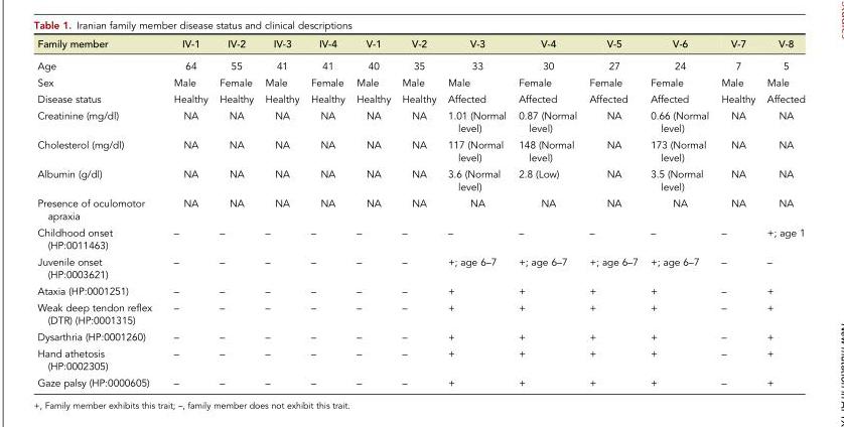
<table><thead><tr><td>Family member</td><td>IV-1</td><td>IV-2</td><td>IV-3</td><td>IV-4</td><td>V-1</td><td>V-2</td><td>V-3</td><td>V-4</td><td>V-5</td><td>V-6</td><td>V-7</td><td>V-8</td></tr></thead><tbody><tr><td>Age</td><td>64</td><td>55</td><td>41</td><td>41</td><td>40</td><td>35</td><td>33</td><td>30</td><td>27</td><td>24</td><td>7</td><td>5</td></tr><tr><td>Sex</td><td>Male</td><td>Female</td><td>Male</td><td>Female</td><td>Male</td><td>Male</td><td>Male</td><td>Female</td><td>Female</td><td>Female</td><td>Male</td><td>Male</td></tr><tr><td>Disease status</td><td>Healthy</td><td>Healthy</td><td>Healthy</td><td>Healthy</td><td>Healthy</td><td>Healthy</td><td>Affected</td><td>Affected</td><td>Affected</td><td>Affected</td><td>Healthy</td><td>Affected</td></tr><tr><td>Creatinine (mg/dl)</td><td>NA</td><td>NA</td><td>NA</td><td>NA</td><td>NA</td><td>NA</td><td>1.01 (Normal level)</td><td>0.87 (Normal level)</td><td>NA</td><td>0.66 (Normal level)</td><td>NA</td><td>NA</td></tr><tr><td>Cholesterol (mg/dl)</td><td>NA</td><td>NA</td><td>NA</td><td>NA</td><td>NA</td><td>NA</td><td>117 (Normal level)</td><td>148 (Normal level)</td><td>NA</td><td>173 (Normal level)</td><td>NA</td><td>NA</td></tr><tr><td>Albumin (g/dl)</td><td>NA</td><td>NA</td><td>NA</td><td>NA</td><td>NA</td><td>NA</td><td>3.6 (Normal level)</td><td>2.8 (Low)</td><td>NA</td><td>3.5 (Normal level)</td><td>NA</td><td>NA</td></tr><tr><td>Presence of oculomotor apraxia</td><td>NA</td><td>NA</td><td>NA</td><td>NA</td><td>NA</td><td>NA</td><td>NA</td><td>NA</td><td>NA</td><td>NA</td><td>NA</td><td>NA</td></tr><tr><td>Childhood onset (HP:0011463)</td><td>–</td><td>–</td><td>–</td><td>–</td><td>–</td><td>–</td><td>–</td><td>–</td><td>–</td><td>–</td><td>–</td><td>+; age 1</td></tr><tr><td>Juvenile onset (HP:0003621)</td><td>–</td><td>–</td><td>–</td><td>–</td><td>–</td><td>–</td><td>+; age 6–7</td><td>+; age 6–7</td><td>+; age 6–7</td><td>+; age 6–7</td><td>–</td><td>–</td></tr><tr><td>Ataxia (HP:0001251)</td><td>–</td><td>–</td><td>–</td><td>–</td><td>–</td><td>–</td><td>+</td><td>+</td><td>+</td><td>+</td><td>–</td><td>+</td></tr><tr><td>Weak deep tendon reflex (DTR) (HP:0001315)</td><td>–</td><td>–</td><td>–</td><td>–</td><td>–</td><td>–</td><td>+</td><td>+</td><td>+</td><td>+</td><td>–</td><td>+</td></tr><tr><td>Dysarthria (HP:0001260)</td><td>–</td><td>–</td><td>–</td><td>–</td><td>–</td><td>–</td><td>+</td><td>+</td><td>+</td><td>+</td><td>–</td><td>+</td></tr><tr><td>Hand athetosis (HP:0002305)</td><td>–</td><td>–</td><td>–</td><td>–</td><td>–</td><td>–</td><td>+</td><td>+</td><td>+</td><td>+</td><td>–</td><td>+</td></tr><tr><td>Gaze palsy (HP:0000605)</td><td>–</td><td>–</td><td>–</td><td>–</td><td>–</td><td>–</td><td>+</td><td>+</td><td>+</td><td>+</td><td>–</td><td>+</td></tr></tbody></table>